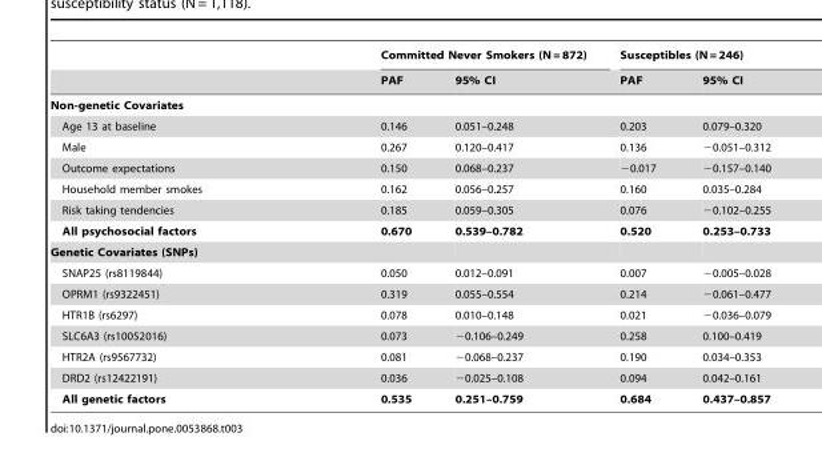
<table><thead><tr><td rowspan="2"></td><td colspan="2">Committed Never Smokers (N = 872)</td><td colspan="2">Susceptibles (N = 246)</td></tr><tr><td>PAF</td><td>95% CI</td><td>PAF</td><td>95% CI</td></tr></thead><tbody><tr><td colspan="5">Non-genetic Covariates</td></tr><tr><td>Age 13 at baseline</td><td>0.146</td><td>0.051–0.248</td><td>0.203</td><td>0.079–0.320</td></tr><tr><td>Male</td><td>0.267</td><td>0.120–0.417</td><td>0.136</td><td>−0.051–0.312</td></tr><tr><td>Outcome expectations</td><td>0.150</td><td>0.068–0.237</td><td>−0.017</td><td>−0.157–0.140</td></tr><tr><td>Household member smokes</td><td>0.162</td><td>0.056–0.257</td><td>0.160</td><td>0.035–0.284</td></tr><tr><td>Risk taking tendencies</td><td>0.185</td><td>0.059–0.305</td><td>0.076</td><td>−0.102–0.255</td></tr><tr><td>All psychosocial factors</td><td>0.670</td><td>0.539–0.782</td><td>0.520</td><td>0.253–0.733</td></tr><tr><td colspan="5">Genetic Covariates (SNPs)</td></tr><tr><td>SNAP25 (rs8119844)</td><td>0.050</td><td>0.012–0.091</td><td>0.007</td><td>−0.005–0.028</td></tr><tr><td>OPRM1 (rs9322451)</td><td>0.319</td><td>0.055–0.554</td><td>0.214</td><td>−0.061–0.477</td></tr><tr><td>HTR1B (rs6297)</td><td>0.078</td><td>0.010–0.148</td><td>0.021</td><td>−0.036–0.079</td></tr><tr><td>SLC6A3 (rs10052016)</td><td>0.073</td><td>−0.106–0.249</td><td>0.258</td><td>0.100–0.419</td></tr><tr><td>HTR2A (rs9567732)</td><td>0.081</td><td>−0.068–0.237</td><td>0.190</td><td>0.034–0.353</td></tr><tr><td>DRD2 (rs12422191)</td><td>0.036</td><td>−0.025–0.108</td><td>0.094</td><td>0.042–0.161</td></tr><tr><td>All genetic factors</td><td>0.535</td><td>0.251–0.759</td><td>0.684</td><td>0.437–0.857</td></tr></tbody></table>